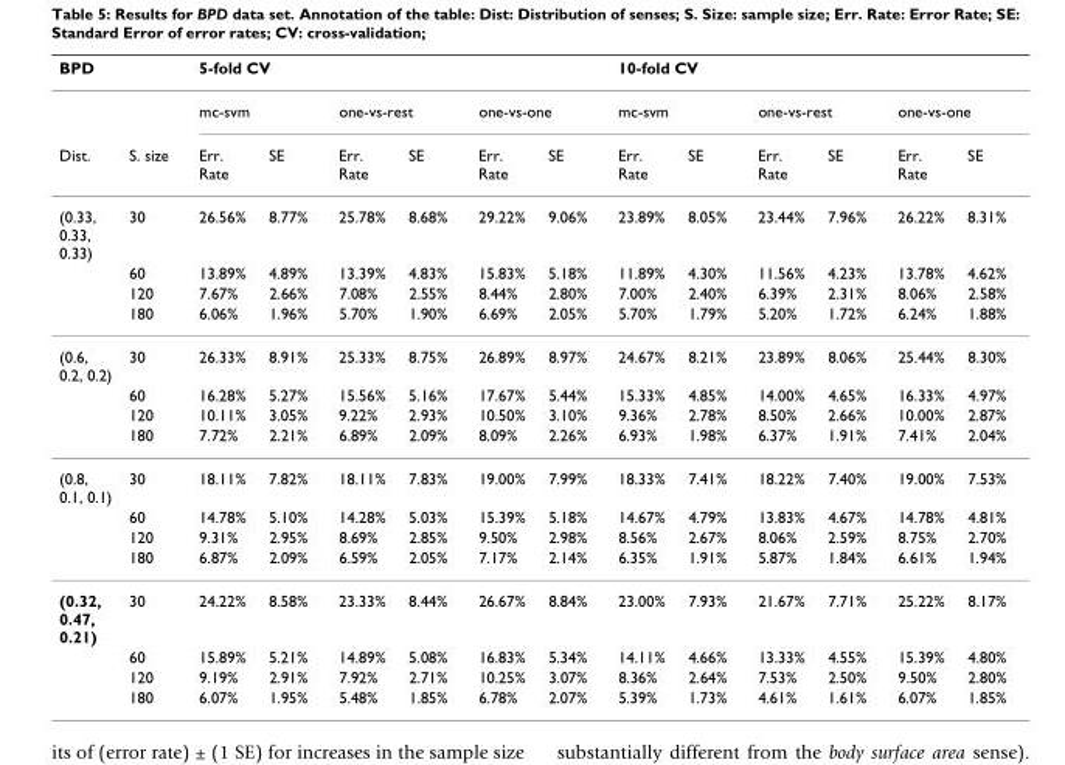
<table><thead><tr><td rowspan="3">BPD Dist.</td><td rowspan="3">S. size</td><td colspan="6">5-fold CV</td><td colspan="6">10-fold CV</td></tr><tr><td colspan="2">mc-svm</td><td colspan="2">one-vs-rest</td><td colspan="2">one-vs-one</td><td colspan="2">mc-svm</td><td colspan="2">one-vs-rest</td><td colspan="2">one-vs-one</td></tr><tr><td>Err. Rate</td><td>SE</td><td>Err. Rate</td><td>SE</td><td>Err. Rate</td><td>SE</td><td>Err. Rate</td><td>SE</td><td>Err. Rate</td><td>SE</td><td>Err. Rate</td><td>SE</td></tr></thead><tbody><tr><td rowspan="4">(0.33, 0.33, 0.33)</td><td>30</td><td>26.56%</td><td>8.77%</td><td>25.78%</td><td>8.68%</td><td>29.22%</td><td>9.06%</td><td>23.89%</td><td>8.05%</td><td>23.44%</td><td>7.96%</td><td>26.22%</td><td>8.31%</td></tr><tr><td>60</td><td>13.89%</td><td>4.89%</td><td>13.39%</td><td>4.83%</td><td>15.83%</td><td>5.18%</td><td>11.89%</td><td>4.30%</td><td>11.56%</td><td>4.23%</td><td>13.78%</td><td>4.62%</td></tr><tr><td>120</td><td>7.67%</td><td>2.66%</td><td>7.08%</td><td>2.55%</td><td>8.44%</td><td>2.80%</td><td>7.00%</td><td>2.40%</td><td>6.39%</td><td>2.31%</td><td>8.06%</td><td>2.58%</td></tr><tr><td>180</td><td>6.06%</td><td>1.96%</td><td>5.70%</td><td>1.90%</td><td>6.69%</td><td>2.05%</td><td>5.70%</td><td>1.79%</td><td>5.20%</td><td>1.72%</td><td>6.24%</td><td>1.88%</td></tr><tr><td rowspan="4">(0.6, 0.2, 0.2)</td><td>30</td><td>26.33%</td><td>8.91%</td><td>25.33%</td><td>8.75%</td><td>26.89%</td><td>8.97%</td><td>24.67%</td><td>8.21%</td><td>23.89%</td><td>8.06%</td><td>25.44%</td><td>8.30%</td></tr><tr><td>60</td><td>16.28%</td><td>5.27%</td><td>15.56%</td><td>5.16%</td><td>17.67%</td><td>5.44%</td><td>15.33%</td><td>4.85%</td><td>14.00%</td><td>4.65%</td><td>16.33%</td><td>4.97%</td></tr><tr><td>120</td><td>10.11%</td><td>3.05%</td><td>9.22%</td><td>2.93%</td><td>10.50%</td><td>3.10%</td><td>9.36%</td><td>2.78%</td><td>8.50%</td><td>2.66%</td><td>10.00%</td><td>2.87%</td></tr><tr><td>180</td><td>7.72%</td><td>2.21%</td><td>6.89%</td><td>2.09%</td><td>8.09%</td><td>2.26%</td><td>6.93%</td><td>1.98%</td><td>6.37%</td><td>1.91%</td><td>7.41%</td><td>2.04%</td></tr><tr><td rowspan="4">(0.8, 0.1, 0.1)</td><td>30</td><td>18.11%</td><td>7.82%</td><td>18.11%</td><td>7.83%</td><td>19.00%</td><td>7.99%</td><td>18.33%</td><td>7.41%</td><td>18.22%</td><td>7.40%</td><td>19.00%</td><td>7.53%</td></tr><tr><td>60</td><td>14.78%</td><td>5.10%</td><td>14.28%</td><td>5.03%</td><td>15.39%</td><td>5.18%</td><td>14.67%</td><td>4.79%</td><td>13.83%</td><td>4.67%</td><td>14.78%</td><td>4.81%</td></tr><tr><td>120</td><td>9.31%</td><td>2.95%</td><td>8.69%</td><td>2.85%</td><td>9.50%</td><td>2.98%</td><td>8.56%</td><td>2.67%</td><td>8.06%</td><td>2.59%</td><td>8.75%</td><td>2.70%</td></tr><tr><td>180</td><td>6.87%</td><td>2.09%</td><td>6.59%</td><td>2.05%</td><td>7.17%</td><td>2.14%</td><td>6.35%</td><td>1.91%</td><td>5.87%</td><td>1.84%</td><td>6.61%</td><td>1.94%</td></tr><tr><td rowspan="4">(0.32, 0.47, 0.21)</td><td>30</td><td>24.22%</td><td>8.58%</td><td>23.33%</td><td>8.44%</td><td>26.67%</td><td>8.84%</td><td>23.00%</td><td>7.93%</td><td>21.67%</td><td>7.71%</td><td>25.22%</td><td>8.17%</td></tr><tr><td>60</td><td>15.89%</td><td>5.21%</td><td>14.89%</td><td>5.08%</td><td>16.83%</td><td>5.34%</td><td>14.11%</td><td>4.66%</td><td>13.33%</td><td>4.55%</td><td>15.39%</td><td>4.80%</td></tr><tr><td>120</td><td>9.19%</td><td>2.91%</td><td>7.92%</td><td>2.71%</td><td>10.25%</td><td>3.07%</td><td>8.36%</td><td>2.64%</td><td>7.53%</td><td>2.50%</td><td>9.50%</td><td>2.80%</td></tr><tr><td>180</td><td>6.07%</td><td>1.95%</td><td>5.48%</td><td>1.85%</td><td>6.78%</td><td>2.07%</td><td>5.39%</td><td>1.73%</td><td>4.61%</td><td>1.61%</td><td>6.07%</td><td>1.85%</td></tr></tbody></table>